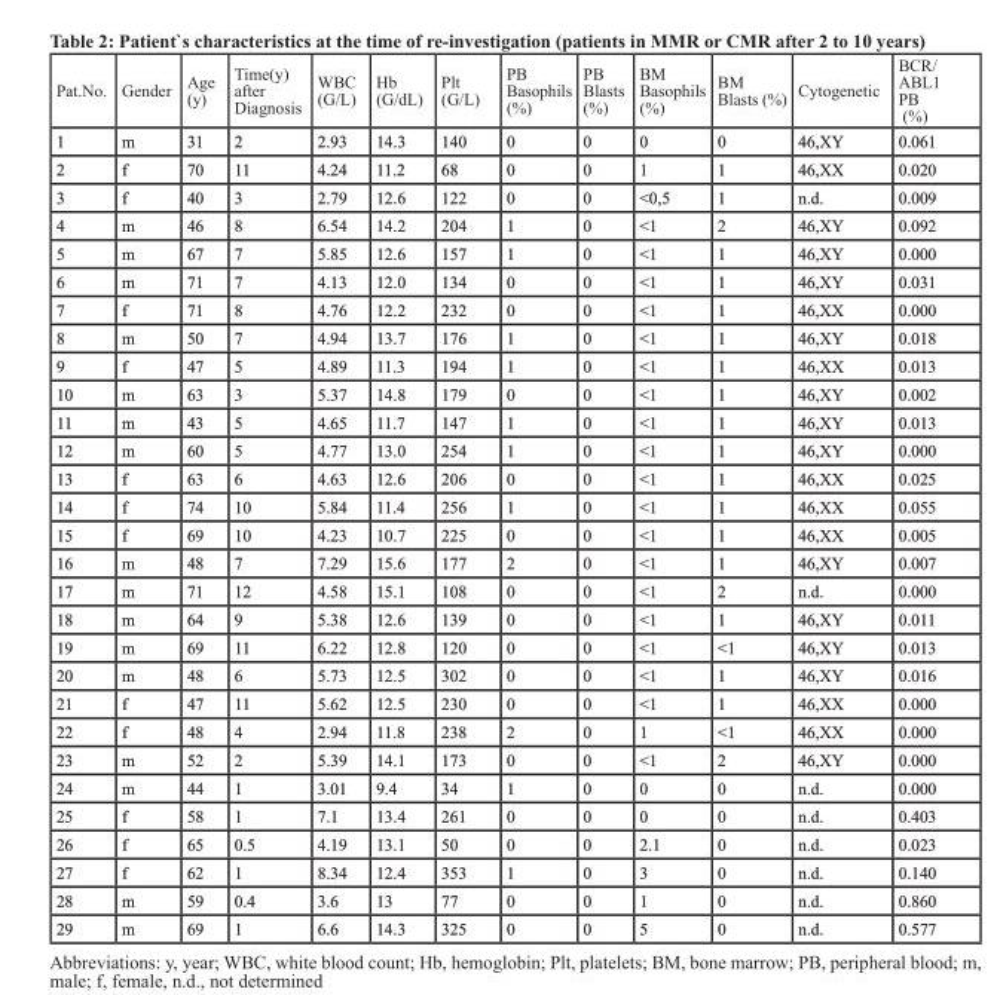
<table><thead><tr><td>Pat.No.</td><td>Gender</td><td>Age (y)</td><td>Time(y) after Diagnosis</td><td>WBC (G/L)</td><td>Hb (G/dL)</td><td>Plt (G/L)</td><td>PB Basophils (%)</td><td>PB Blasts (%)</td><td>BM Basophils (%)</td><td>BM Blasts (%)</td><td>Cytogenetic</td><td>BCR/ ABL1 PB (%)</td></tr></thead><tbody><tr><td>1</td><td>m</td><td>31</td><td>2</td><td>2.93</td><td>14.3</td><td>140</td><td>0</td><td>0</td><td>0</td><td>0</td><td>46,XY</td><td>0.061</td></tr><tr><td>2</td><td>f</td><td>70</td><td>11</td><td>4.24</td><td>11.2</td><td>68</td><td>0</td><td>0</td><td>1</td><td>1</td><td>46,XX</td><td>0.020</td></tr><tr><td>3</td><td>f</td><td>40</td><td>3</td><td>2.79</td><td>12.6</td><td>122</td><td>0</td><td>0</td><td>&lt;0,5</td><td>1</td><td>n.d.</td><td>0.009</td></tr><tr><td>4</td><td>m</td><td>46</td><td>8</td><td>6.54</td><td>14.2</td><td>204</td><td>1</td><td>0</td><td>&lt;1</td><td>2</td><td>46,XY</td><td>0.092</td></tr><tr><td>5</td><td>m</td><td>67</td><td>7</td><td>5.85</td><td>12.6</td><td>157</td><td>1</td><td>0</td><td>&lt;1</td><td>1</td><td>46,XY</td><td>0.000</td></tr><tr><td>6</td><td>m</td><td>71</td><td>7</td><td>4.13</td><td>12.0</td><td>134</td><td>0</td><td>0</td><td>&lt;1</td><td>1</td><td>46,XY</td><td>0.031</td></tr><tr><td>7</td><td>f</td><td>71</td><td>8</td><td>4.76</td><td>12.2</td><td>232</td><td>0</td><td>0</td><td>&lt;1</td><td>1</td><td>46,XX</td><td>0.000</td></tr><tr><td>8</td><td>m</td><td>50</td><td>7</td><td>4.94</td><td>13.7</td><td>176</td><td>1</td><td>0</td><td>&lt;1</td><td>1</td><td>46,XY</td><td>0.018</td></tr><tr><td>9</td><td>f</td><td>47</td><td>5</td><td>4.89</td><td>11.3</td><td>194</td><td>1</td><td>0</td><td>&lt;1</td><td>1</td><td>46,XX</td><td>0.013</td></tr><tr><td>10</td><td>m</td><td>63</td><td>3</td><td>5.37</td><td>14.8</td><td>179</td><td>0</td><td>0</td><td>&lt;1</td><td>1</td><td>46,XY</td><td>0.002</td></tr><tr><td>11</td><td>m</td><td>43</td><td>5</td><td>4.65</td><td>11.7</td><td>147</td><td>1</td><td>0</td><td>&lt;1</td><td>1</td><td>46,XY</td><td>0.013</td></tr><tr><td>12</td><td>m</td><td>60</td><td>5</td><td>4.77</td><td>13.0</td><td>254</td><td>1</td><td>0</td><td>&lt;1</td><td>1</td><td>46,XY</td><td>0.000</td></tr><tr><td>13</td><td>f</td><td>63</td><td>6</td><td>4.63</td><td>12.6</td><td>206</td><td>0</td><td>0</td><td>&lt;1</td><td>1</td><td>46,XX</td><td>0.025</td></tr><tr><td>14</td><td>f</td><td>74</td><td>10</td><td>5.84</td><td>11.4</td><td>256</td><td>1</td><td>0</td><td>&lt;1</td><td>1</td><td>46,XX</td><td>0.055</td></tr><tr><td>15</td><td>f</td><td>69</td><td>10</td><td>4.23</td><td>10.7</td><td>225</td><td>0</td><td>0</td><td>&lt;1</td><td>1</td><td>46,XX</td><td>0.005</td></tr><tr><td>16</td><td>m</td><td>48</td><td>7</td><td>7.29</td><td>15.6</td><td>177</td><td>2</td><td>0</td><td>&lt;1</td><td>1</td><td>46,XY</td><td>0.007</td></tr><tr><td>17</td><td>m</td><td>71</td><td>12</td><td>4.58</td><td>15.1</td><td>108</td><td>0</td><td>0</td><td>&lt;1</td><td>2</td><td>n.d.</td><td>0.000</td></tr><tr><td>18</td><td>m</td><td>64</td><td>9</td><td>5.38</td><td>12.6</td><td>139</td><td>0</td><td>0</td><td>&lt;1</td><td>1</td><td>46,XY</td><td>0.011</td></tr><tr><td>19</td><td>m</td><td>69</td><td>11</td><td>6.22</td><td>12.8</td><td>120</td><td>0</td><td>0</td><td>&lt;1</td><td>&lt;1</td><td>46,XY</td><td>0.013</td></tr><tr><td>20</td><td>m</td><td>48</td><td>6</td><td>5.73</td><td>12.5</td><td>302</td><td>0</td><td>0</td><td>&lt;1</td><td>1</td><td>46,XY</td><td>0.016</td></tr><tr><td>21</td><td>f</td><td>47</td><td>11</td><td>5.62</td><td>12.5</td><td>230</td><td>0</td><td>0</td><td>&lt;1</td><td>1</td><td>46,XX</td><td>0.000</td></tr><tr><td>22</td><td>f</td><td>48</td><td>4</td><td>2.94</td><td>11.8</td><td>238</td><td>2</td><td>0</td><td>1</td><td>&lt;1</td><td>46,XX</td><td>0.000</td></tr><tr><td>23</td><td>m</td><td>52</td><td>2</td><td>5.39</td><td>14.1</td><td>173</td><td>0</td><td>0</td><td>&lt;1</td><td>2</td><td>46,XY</td><td>0.000</td></tr><tr><td>24</td><td>m</td><td>44</td><td>1</td><td>3.01</td><td>9.4</td><td>34</td><td>1</td><td>0</td><td>0</td><td>0</td><td>n.d.</td><td>0.000</td></tr><tr><td>25</td><td>f</td><td>58</td><td>1</td><td>7.1</td><td>13.4</td><td>261</td><td>0</td><td>0</td><td>0</td><td>0</td><td>n.d.</td><td>0.403</td></tr><tr><td>26</td><td>f</td><td>65</td><td>0.5</td><td>4.19</td><td>13.1</td><td>50</td><td>0</td><td>0</td><td>2.1</td><td>0</td><td>n.d.</td><td>0.023</td></tr><tr><td>27</td><td>f</td><td>62</td><td>1</td><td>8.34</td><td>12.4</td><td>353</td><td>1</td><td>0</td><td>3</td><td>0</td><td>n.d.</td><td>0.140</td></tr><tr><td>28</td><td>m</td><td>59</td><td>0.4</td><td>3.6</td><td>13</td><td>77</td><td>0</td><td>0</td><td>1</td><td>0</td><td>n.d.</td><td>0.860</td></tr><tr><td>29</td><td>m</td><td>69</td><td>1</td><td>6.6</td><td>14.3</td><td>325</td><td>0</td><td>0</td><td>5</td><td>0</td><td>n.d.</td><td>0.577</td></tr></tbody></table>